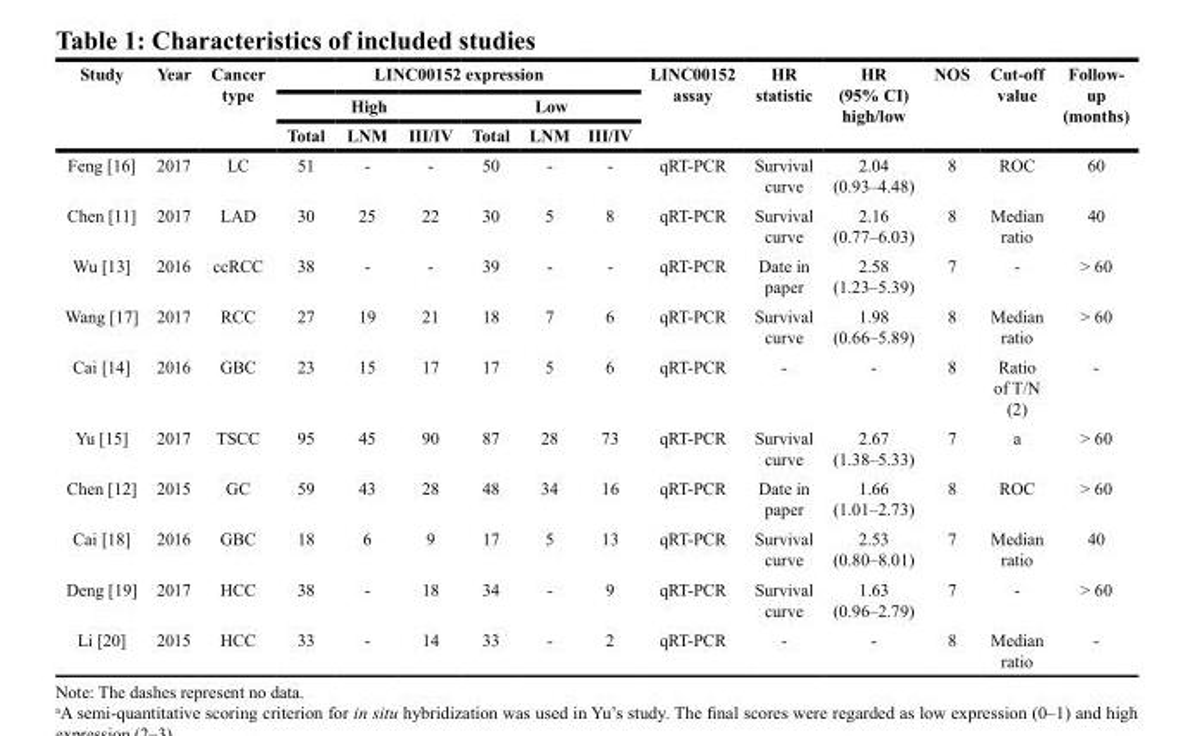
<table><thead><tr><td rowspan="3">Study</td><td rowspan="3">Year</td><td rowspan="3">Cancer type</td><td colspan="6">LINC00152 expression</td><td rowspan="3">LINC00152 assay</td><td rowspan="3">HR statistic</td><td rowspan="3">HR (95% CI) high/low</td><td rowspan="3">NOS</td><td rowspan="3">Cut-off value</td><td rowspan="3">Follow- up (months)</td></tr><tr><td colspan="3">High</td><td colspan="3">Low</td></tr><tr><td>Total</td><td>LNM</td><td>III/IV</td><td>Total</td><td>LNM</td><td>III/IV</td></tr></thead><tbody><tr><td>Feng [16]</td><td>2017</td><td>LC</td><td>51</td><td>-</td><td>-</td><td>50</td><td>-</td><td>-</td><td>qRT-PCR</td><td>Survival curve</td><td>2.04 (0.93–4.48)</td><td>8</td><td>ROC</td><td>60</td></tr><tr><td>Chen [11]</td><td>2017</td><td>LAD</td><td>30</td><td>25</td><td>22</td><td>30</td><td>5</td><td>8</td><td>qRT-PCR</td><td>Survival curve</td><td>2.16 (0.77–6.03)</td><td>8</td><td>Median ratio</td><td>40</td></tr><tr><td>Wu [13]</td><td>2016</td><td>ccRCC</td><td>38</td><td>-</td><td>-</td><td>39</td><td>-</td><td>-</td><td>qRT-PCR</td><td>Date in paper</td><td>2.58 (1.23–5.39)</td><td>7</td><td>-</td><td>&gt; 60</td></tr><tr><td>Wang [17]</td><td>2017</td><td>RCC</td><td>27</td><td>19</td><td>21</td><td>18</td><td>7</td><td>6</td><td>qRT-PCR</td><td>Survival curve</td><td>1.98 (0.66–5.89)</td><td>8</td><td>Median ratio</td><td>&gt; 60</td></tr><tr><td>Cai [14]</td><td>2016</td><td>GBC</td><td>23</td><td>15</td><td>17</td><td>17</td><td>5</td><td>6</td><td>qRT-PCR</td><td>-</td><td>-</td><td>8</td><td>Ratio of T/N (2)</td><td>-</td></tr><tr><td>Yu [15]</td><td>2017</td><td>TSCC</td><td>95</td><td>45</td><td>90</td><td>87</td><td>28</td><td>73</td><td>qRT-PCR</td><td>Survival curve</td><td>2.67 (1.38–5.33)</td><td>7</td><td>a</td><td>&gt; 60</td></tr><tr><td>Chen [12]</td><td>2015</td><td>GC</td><td>59</td><td>43</td><td>28</td><td>48</td><td>34</td><td>16</td><td>qRT-PCR</td><td>Date in paper</td><td>1.66 (1.01–2.73)</td><td>8</td><td>ROC</td><td>&gt; 60</td></tr><tr><td>Cai [18]</td><td>2016</td><td>GBC</td><td>18</td><td>6</td><td>9</td><td>17</td><td>5</td><td>13</td><td>qRT-PCR</td><td>Survival curve</td><td>2.53 (0.80–8.01)</td><td>7</td><td>Median ratio</td><td>40</td></tr><tr><td>Deng [19]</td><td>2017</td><td>HCC</td><td>38</td><td>-</td><td>18</td><td>34</td><td>-</td><td>9</td><td>qRT-PCR</td><td>Survival curve</td><td>1.63 (0.96–2.79)</td><td>7</td><td>-</td><td>&gt; 60</td></tr><tr><td>Li [20]</td><td>2015</td><td>HCC</td><td>33</td><td>-</td><td>14</td><td>33</td><td>-</td><td>2</td><td>qRT-PCR</td><td>-</td><td>-</td><td>8</td><td>Median ratio</td><td>-</td></tr></tbody></table>